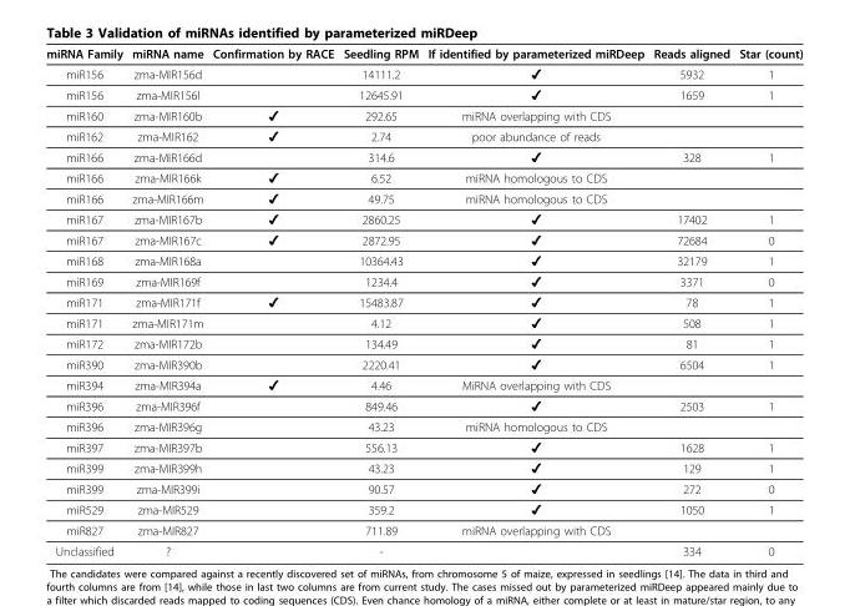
<table><thead><tr><td>miRNA Family</td><td>miRNA name</td><td>Confirmation by RACE</td><td>Seedling RPM</td><td>If identified by parameterized miRDeep</td><td>Reads aligned</td><td>Star (count)</td></tr></thead><tbody><tr><td>miR156</td><td>zma-MIR156d</td><td></td><td>14111.2</td><td>✔</td><td>5932</td><td>1</td></tr><tr><td>miR156</td><td>zma-MIR156l</td><td></td><td>12645.91</td><td>✔</td><td>1659</td><td>1</td></tr><tr><td>miR160</td><td>zma-MIR160b</td><td>✔</td><td>292.65</td><td>miRNA overlapping with CDS</td><td></td><td></td></tr><tr><td>miR162</td><td>zma-MIR162</td><td>✔</td><td>2.74</td><td>poor abundance of reads</td><td></td><td></td></tr><tr><td>miR166</td><td>zma-MIR166d</td><td></td><td>314.6</td><td>✔</td><td>328</td><td>1</td></tr><tr><td>miR166</td><td>zma-MIR166k</td><td>✔</td><td>6.52</td><td>miRNA homologous to CDS</td><td></td><td></td></tr><tr><td>miR166</td><td>zma-MIR166m</td><td>✔</td><td>49.75</td><td>miRNA homologous to CDS</td><td></td><td></td></tr><tr><td>miR167</td><td>zma-MIR167b</td><td>✔</td><td>2860.25</td><td>✔</td><td>17402</td><td>1</td></tr><tr><td>miR167</td><td>zma-MIR167c</td><td>✔</td><td>2872.95</td><td>✔</td><td>72684</td><td>0</td></tr><tr><td>miR168</td><td>zma-MIR168a</td><td></td><td>10364.43</td><td>✔</td><td>32179</td><td>1</td></tr><tr><td>miR169</td><td>zma-MIR169f</td><td></td><td>1234.4</td><td>✔</td><td>3371</td><td>0</td></tr><tr><td>miR171</td><td>zma-MIR171f</td><td>✔</td><td>15483.87</td><td>✔</td><td>78</td><td>1</td></tr><tr><td>miR171</td><td>zma-MIR171m</td><td></td><td>4.12</td><td>✔</td><td>508</td><td>1</td></tr><tr><td>miR172</td><td>zma-MIR172b</td><td></td><td>134.49</td><td>✔</td><td>81</td><td>1</td></tr><tr><td>miR390</td><td>zma-MIR390b</td><td></td><td>2220.41</td><td>✔</td><td>6504</td><td>1</td></tr><tr><td>miR394</td><td>zma-MIR394a</td><td>✔</td><td>4.46</td><td>MiRNA overlapping with CDS</td><td></td><td></td></tr><tr><td>miR396</td><td>zma-MIR396f</td><td></td><td>849.46</td><td>✔</td><td>2503</td><td>1</td></tr><tr><td>miR396</td><td>zma-MIR396g</td><td></td><td>43.23</td><td>miRNA homologous to CDS</td><td></td><td></td></tr><tr><td>miR397</td><td>zma-MIR397b</td><td></td><td>556.13</td><td>✔</td><td>1628</td><td>1</td></tr><tr><td>miR399</td><td>zma-MIR399h</td><td></td><td>43.23</td><td>✔</td><td>129</td><td>1</td></tr><tr><td>miR399</td><td>zma-MIR399i</td><td></td><td>90.57</td><td>✔</td><td>272</td><td>0</td></tr><tr><td>miR529</td><td>zma-MIR529</td><td></td><td>359.2</td><td>✔</td><td>1050</td><td>1</td></tr><tr><td>miR827</td><td>zma-MIR827</td><td></td><td>711.89</td><td>miRNA overlapping with CDS</td><td></td><td></td></tr><tr><td>Unclassified</td><td>?</td><td></td><td>-</td><td></td><td>334</td><td>0</td></tr></tbody></table>